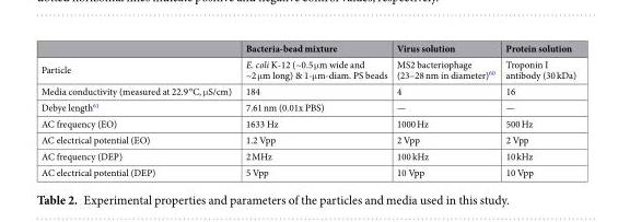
<table><thead><tr><td></td><td>Bacteria-bead mixture</td><td>Virus solution</td><td>Protein solution</td></tr></thead><tbody><tr><td>Particle</td><td>E. coli K-12 (~0.5 μm wide and ~2 μm long) &amp; 1-μm-diam. PS beads</td><td>MS2 bacteriophage (23–28 nm in diameter)<sup>60</sup></td><td>Troponin I antibody (30 kDa)</td></tr><tr><td>Media conductivity (measured at 22.9 °C, μS/cm)</td><td>184</td><td>4</td><td>16</td></tr><tr><td>Debye length<sup>61</sup></td><td>7.61 nm (0.01x PBS)</td><td>—</td><td>—</td></tr><tr><td>AC frequency (EO)</td><td>1633 Hz</td><td>1000 Hz</td><td>500 Hz</td></tr><tr><td>AC electrical potential (EO)</td><td>1.2 Vpp</td><td>2 Vpp</td><td>2 Vpp</td></tr><tr><td>AC frequency (DEP)</td><td>2 MHz</td><td>100 kHz</td><td>10 kHz</td></tr><tr><td>AC electrical potential (DEP)</td><td>5 Vpp</td><td>10 Vpp</td><td>10 Vpp</td></tr></tbody></table>